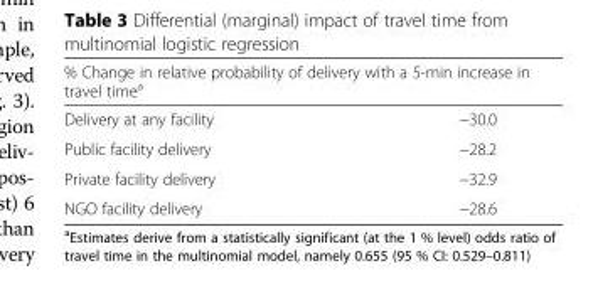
<table><thead><tr><td colspan="2">% Change in relative probability of delivery with a 5-min increase in travel time<sup>a</sup></td></tr><tr><td>Delivery at any facility</td><td>−30.0</td></tr></thead><tbody><tr><td>Public facility delivery</td><td>−28.2</td></tr><tr><td>Private facility delivery</td><td>−32.9</td></tr><tr><td>NGO facility delivery</td><td>−28.6</td></tr></tbody></table>